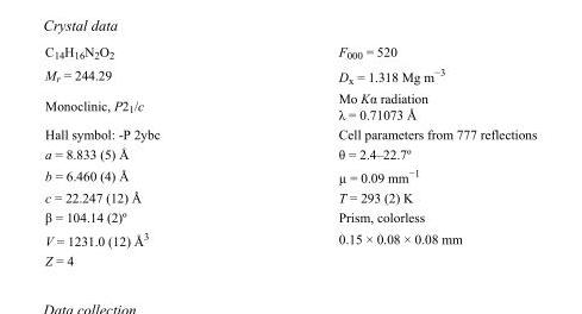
<table><tbody><tr><td>C<sub>14</sub>H<sub>16</sub>N<sub>2</sub>O<sub>2</sub></td><td>F<sub>000</sub> = 520</td></tr><tr><td>M<sub>r</sub> = 244.29</td><td>D<sub>x</sub> = 1.318 Mg m<sup>−3</sup></td></tr><tr><td>Monoclinic, P2<sub>1</sub>/c</td><td>Mo Kα radiation λ = 0.71073 Å</td></tr><tr><td>Hall symbol: -P 2ybc</td><td>Cell parameters from 777 reflections</td></tr><tr><td>a = 8.833 (5) Å</td><td>θ = 2.4–22.7º</td></tr><tr><td>b = 6.460 (4) Å</td><td>µ = 0.09 mm<sup>−1</sup></td></tr><tr><td>c = 22.247 (12) Å</td><td>T = 293 (2) K</td></tr><tr><td>β = 104.14 (2)º</td><td>Prism, colorless</td></tr><tr><td>V = 1231.0 (12) Å<sup>3</sup></td><td>0.15 × 0.08 × 0.08 mm</td></tr><tr><td>Z = 4</td><td></td></tr></tbody></table>